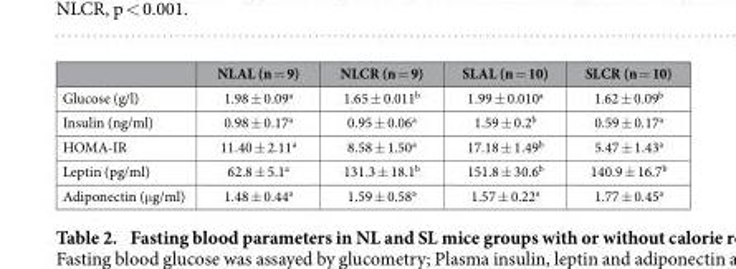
<table><thead><tr><td></td><td>NLAL (n = 9)</td><td>NLCR (n = 9)</td><td>SLAL (n = 10)</td><td>SLCR (n = 10)</td></tr></thead><tbody><tr><td>Glucose (g/l)</td><td>1.98 ± 0.09<sup>a</sup></td><td>1.65 ± 0.011<sup>b</sup></td><td>1.99 ± 0.010<sup>a</sup></td><td>1.62 ± 0.09<sup>b</sup></td></tr><tr><td>Insulin (ng/ml)</td><td>0.98 ± 0.17<sup>a</sup></td><td>0.95 ± 0.06<sup>a</sup></td><td>1.59 ± 0.2<sup>b</sup></td><td>0.59 ± 0.17<sup>a</sup></td></tr><tr><td>HOMA-IR</td><td>11.40 ± 2.11<sup>a</sup></td><td>8.58 ± 1.50<sup>a</sup></td><td>17.18 ± 1.49<sup>b</sup></td><td>5.47 ± 1.43<sup>a</sup></td></tr><tr><td>Leptin (pg/ml)</td><td>62.8 ± 5.1<sup>a</sup></td><td>131.3 ± 18.1<sup>b</sup></td><td>151.8 ± 30.6<sup>b</sup></td><td>140.9 ± 16.7<sup>b</sup></td></tr><tr><td>Adiponectin (μ g/ml)</td><td>1.48 ± 0.44<sup>a</sup></td><td>1.59 ± 0.58<sup>a</sup></td><td>1.57 ± 0.22<sup>a</sup></td><td>1.77 ± 0.45<sup>a</sup></td></tr></tbody></table>